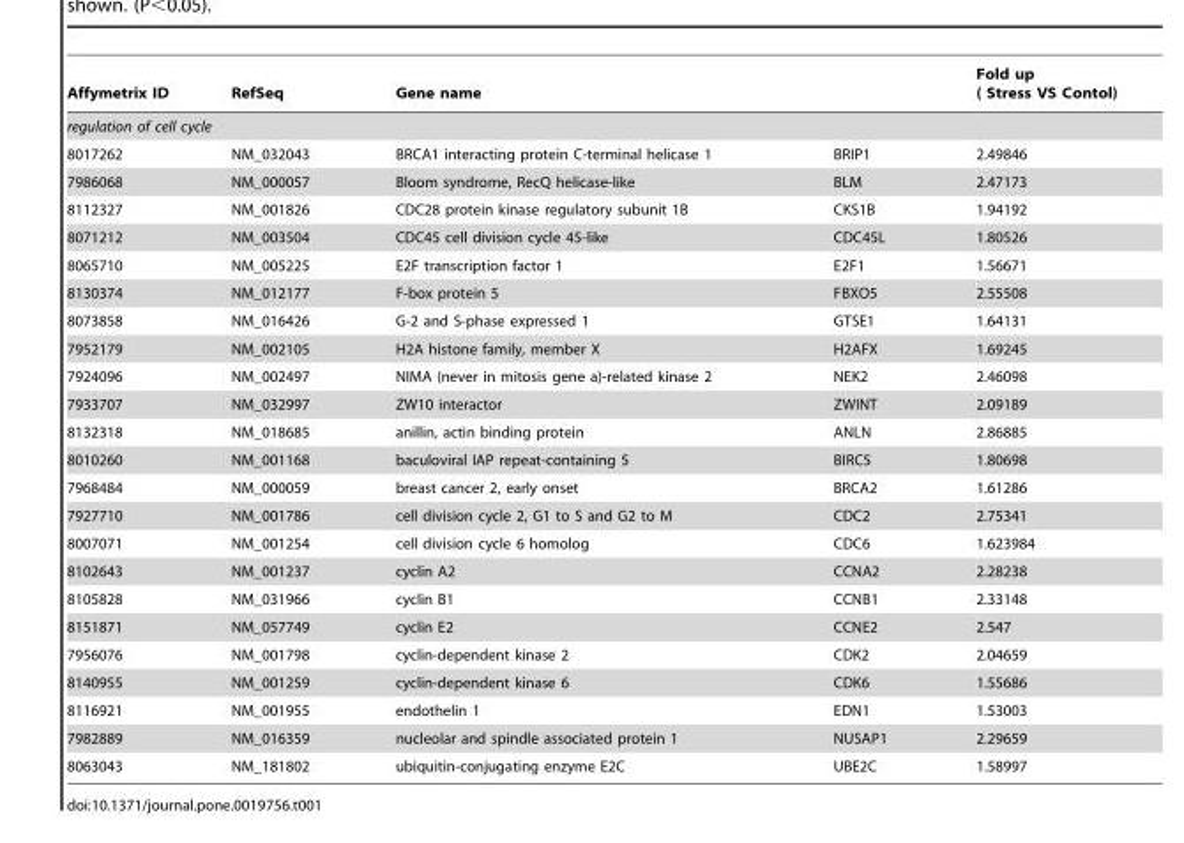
<table><thead><tr><td>Affymetrix ID</td><td>RefSeq</td><td colspan="2">Gene name</td><td>Fold up ( Stress VS Contol)</td></tr><tr><td colspan="5">regulation of cell cycle</td></tr><tr><td>8017262</td><td>NM_032043</td><td>BRCA1 interacting protein C-terminal helicase 1</td><td>BRIP1</td><td>2.49846</td></tr></thead><tbody><tr><td>7986068</td><td>NM_000057</td><td>Bloom syndrome, RecQ helicase-like</td><td>BLM</td><td>2.47173</td></tr><tr><td>8112327</td><td>NM_001826</td><td>CDC28 protein kinase regulatory subunit 1B</td><td>CKS1B</td><td>1.94192</td></tr><tr><td>8071212</td><td>NM_003504</td><td>CDC45 cell division cycle 45-like</td><td>CDC45L</td><td>1.80526</td></tr><tr><td>8065710</td><td>NM_005225</td><td>E2F transcription factor 1</td><td>E2F1</td><td>1.56671</td></tr><tr><td>8130374</td><td>NM_012177</td><td>F-box protein 5</td><td>FBXO5</td><td>2.55508</td></tr><tr><td>8073858</td><td>NM_016426</td><td>G-2 and S-phase expressed 1</td><td>GTSE1</td><td>1.64131</td></tr><tr><td>7952179</td><td>NM_002105</td><td>H2A histone family, member X</td><td>H2AFX</td><td>1.69245</td></tr><tr><td>7924096</td><td>NM_002497</td><td>NIMA (never in mitosis gene a)-related kinase 2</td><td>NEK2</td><td>2.46098</td></tr><tr><td>7933707</td><td>NM_032997</td><td>ZW10 interactor</td><td>ZWINT</td><td>2.09189</td></tr><tr><td>8132318</td><td>NM_018685</td><td>anillin, actin binding protein</td><td>ANLN</td><td>2.86885</td></tr><tr><td>8010260</td><td>NM_001168</td><td>baculoviral IAP repeat-containing 5</td><td>BIRC5</td><td>1.80698</td></tr><tr><td>7968484</td><td>NM_000059</td><td>breast cancer 2, early onset</td><td>BRCA2</td><td>1.61286</td></tr><tr><td>7927710</td><td>NM_001786</td><td>cell division cycle 2, G1 to S and G2 to M</td><td>CDC2</td><td>2.75341</td></tr><tr><td>8007071</td><td>NM_001254</td><td>cell division cycle 6 homolog</td><td>CDC6</td><td>1.623984</td></tr><tr><td>8102643</td><td>NM_001237</td><td>cyclin A2</td><td>CCNA2</td><td>2.28238</td></tr><tr><td>8105828</td><td>NM_031966</td><td>cyclin B1</td><td>CCNB1</td><td>2.33148</td></tr><tr><td>8151871</td><td>NM_057749</td><td>cyclin E2</td><td>CCNE2</td><td>2.547</td></tr><tr><td>7956076</td><td>NM_001798</td><td>cyclin-dependent kinase 2</td><td>CDK2</td><td>2.04659</td></tr><tr><td>8140955</td><td>NM_001259</td><td>cyclin-dependent kinase 6</td><td>CDK6</td><td>1.55686</td></tr><tr><td>8116921</td><td>NM_001955</td><td>endothelin 1</td><td>EDN1</td><td>1.53003</td></tr><tr><td>7982889</td><td>NM_016359</td><td>nucleolar and spindle associated protein 1</td><td>NUSAP1</td><td>2.29659</td></tr><tr><td>8063043</td><td>NM_181802</td><td>ubiquitin-conjugating enzyme E2C</td><td>UBE2C</td><td>1.58997</td></tr></tbody></table>